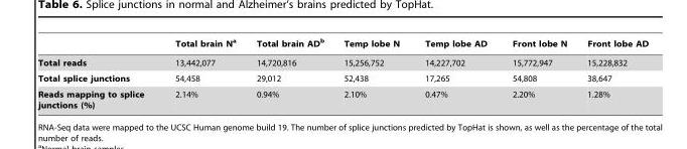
<table><thead><tr><td></td><td>Total brain N<sup>a</sup></td><td>Total brain AD<sup>b</sup></td><td>Temp lobe N</td><td>Temp lobe AD</td><td>Front lobe N</td><td>Front lobe AD</td></tr></thead><tbody><tr><td>Total reads</td><td>13,442,077</td><td>14,720,816</td><td>15,256,752</td><td>14,227,702</td><td>15,772,947</td><td>15,228,832</td></tr><tr><td>Total splice junctions</td><td>54,458</td><td>29,012</td><td>52,438</td><td>17,265</td><td>54,808</td><td>38,647</td></tr><tr><td>Reads mapping to splice junctions (%)</td><td>2.14%</td><td>0.94%</td><td>2.10%</td><td>0.47%</td><td>2.20%</td><td>1.28%</td></tr></tbody></table>